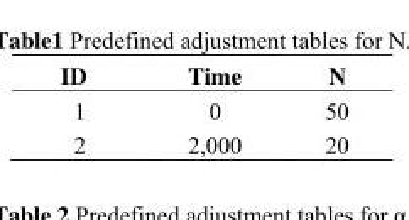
<table><thead><tr><td>ID</td><td>Time</td><td>N</td></tr></thead><tbody><tr><td>1</td><td>0</td><td>50</td></tr><tr><td>2</td><td>2,000</td><td>20</td></tr></tbody></table>